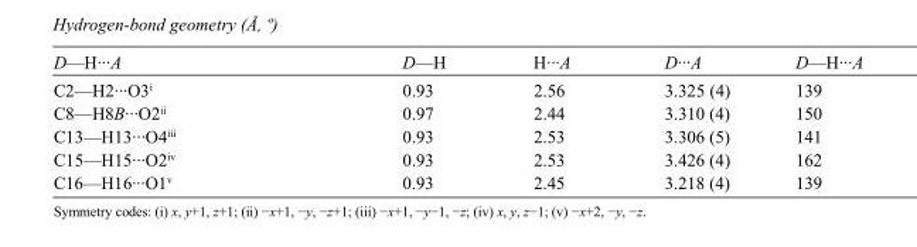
<table><tbody><tr><td>D—H···A</td><td>D—H</td><td>H···A</td><td>D···A</td><td>D—H···A</td></tr><tr><td>C2—H2···O3<sup>i</sup></td><td>0.93</td><td>2.56</td><td>3.325 (4)</td><td>139</td></tr><tr><td>C8—H8B···O2<sup>ii</sup></td><td>0.97</td><td>2.44</td><td>3.310 (4)</td><td>150</td></tr><tr><td>C13—H13···O4<sup>iii</sup></td><td>0.93</td><td>2.53</td><td>3.306 (5)</td><td>141</td></tr><tr><td>C15—H15···O2<sup>iv</sup></td><td>0.93</td><td>2.53</td><td>3.426 (4)</td><td>162</td></tr><tr><td>C16—H16···O1<sup>v</sup></td><td>0.93</td><td>2.45</td><td>3.218 (4)</td><td>139</td></tr></tbody></table>